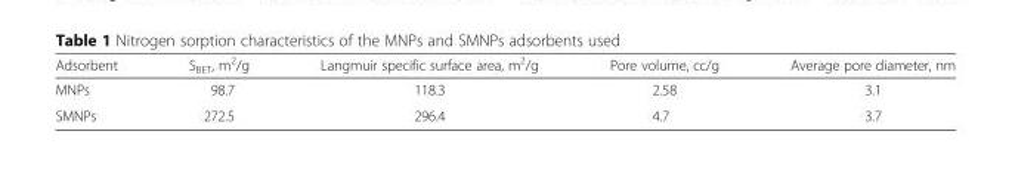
<table><thead><tr><td>Adsorbent</td><td>S<sub>BET</sub>, m<sup>2</sup>/g</td><td>Langmuir specific surface area, m<sup>2</sup>/g</td><td>Pore volume, cc/g</td><td>Average pore diameter, nm</td></tr></thead><tbody><tr><td>MNPs</td><td>98.7</td><td>118.3</td><td>2.58</td><td>3.1</td></tr><tr><td>SMNPs</td><td>272.5</td><td>296.4</td><td>4.7</td><td>3.7</td></tr></tbody></table>